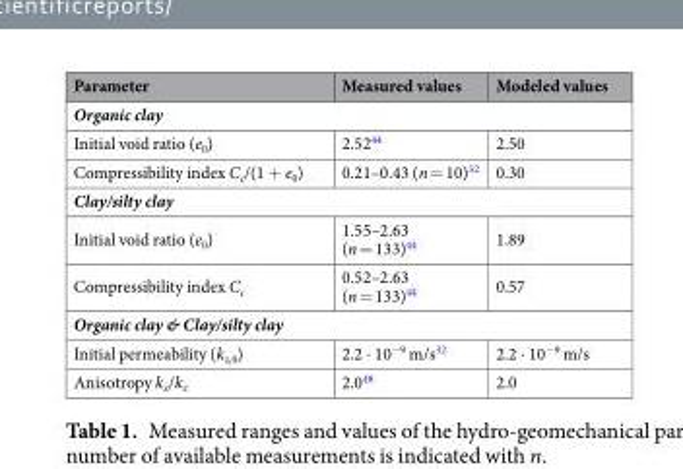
<table><thead><tr><td>Parameter</td><td>Measured values</td><td>Modeled values</td></tr></thead><tbody><tr><td colspan="3">Organic clay</td></tr><tr><td>Initial void ratio (e<sub>0</sub>)</td><td>2.52<sup>44</sup></td><td>2.50</td></tr><tr><td>Compressibility index C<sub>c</sub>/(1 + e<sub>0</sub>)</td><td>0.21–0.43 (n = 10)<sup>32</sup></td><td>0.30</td></tr><tr><td colspan="3">Clay/silty clay</td></tr><tr><td>Initial void ratio (e<sub>0</sub>)</td><td>1.55–2.63 (n = 133)<sup>44</sup></td><td>1.89</td></tr><tr><td>Compressibility index C<sub>c</sub></td><td>0.52–2.63 (n = 133)<sup>44</sup></td><td>0.57</td></tr><tr><td colspan="3">Organic clay &amp; Clay/silty clay</td></tr><tr><td>Initial permeability (k<sub>z,0</sub>)</td><td>2.2 ⋅ 10<sup>−9</sup> m/s<sup>32</sup></td><td>2.2 ⋅ 10<sup>−9</sup> m/s</td></tr><tr><td>Anisotropy k<sub>x</sub>/k<sub>z</sub></td><td>2.0<sup>48</sup></td><td>2.0</td></tr></tbody></table>